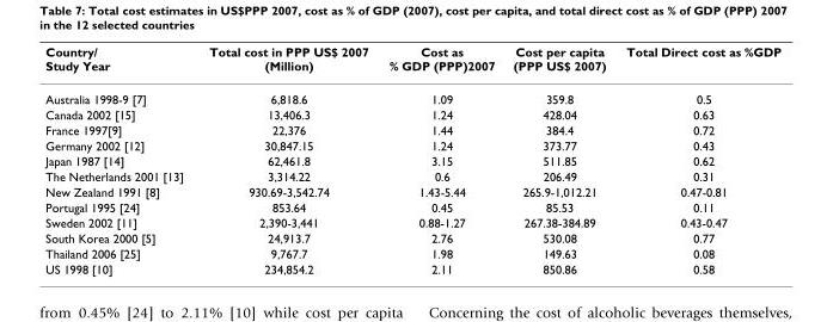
<table><thead><tr><td>Country/ Study Year</td><td>Total cost in PPP US$ 2007 (Million)</td><td>Cost as % GDP (PPP)2007</td><td>Cost per capita (PPP US$ 2007)</td><td>Total Direct cost as %GDP</td></tr></thead><tbody><tr><td>Australia 1998-9 [7]</td><td>6,818.6</td><td>1.09</td><td>359.8</td><td>0.5</td></tr><tr><td>Canada 2002 [15]</td><td>13,406.3</td><td>1.24</td><td>428.04</td><td>0.63</td></tr><tr><td>France 1997[9]</td><td>22,376</td><td>1.44</td><td>384.4</td><td>0.72</td></tr><tr><td>Germany 2002 [12]</td><td>30,847.15</td><td>1.24</td><td>373.77</td><td>0.43</td></tr><tr><td>Japan 1987 [14]</td><td>62,461.8</td><td>3.15</td><td>511.85</td><td>0.62</td></tr><tr><td>The Netherlands 2001 [13]</td><td>3,314.22</td><td>0.6</td><td>206.49</td><td>0.31</td></tr><tr><td>New Zealand 1991 [8]</td><td>930.69-3,542.74</td><td>1.43-5.44</td><td>265.9-1,012.21</td><td>0.47-0.81</td></tr><tr><td>Portugal 1995 [24]</td><td>853.64</td><td>0.45</td><td>85.53</td><td>0.11</td></tr><tr><td>Sweden 2002 [11]</td><td>2,390-3,441</td><td>0.88-1.27</td><td>267.38-384.89</td><td>0.43-0.47</td></tr><tr><td>South Korea 2000 [5]</td><td>24,913.7</td><td>2.76</td><td>530.08</td><td>0.77</td></tr><tr><td>Thailand 2006 [25]</td><td>9,767.7</td><td>1.98</td><td>149.63</td><td>0.08</td></tr><tr><td>US 1998 [10]</td><td>234,854.2</td><td>2.11</td><td>850.86</td><td>0.58</td></tr></tbody></table>